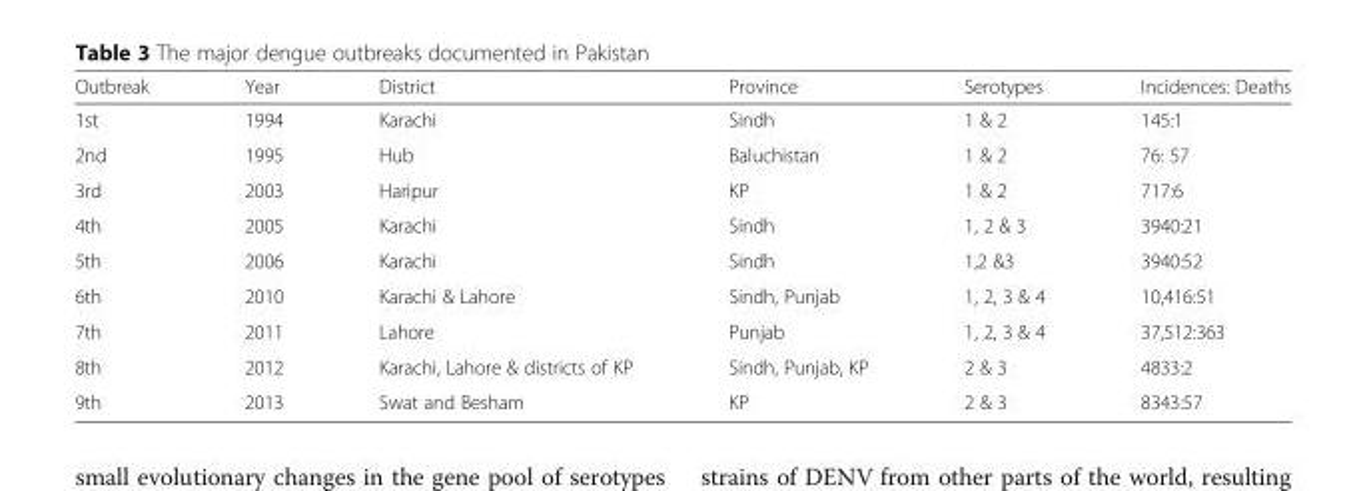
<table><thead><tr><td>Outbreak</td><td>Year</td><td>District</td><td>Province</td><td>Serotypes</td><td>Incidences: Deaths</td></tr></thead><tbody><tr><td>1st</td><td>1994</td><td>Karachi</td><td>Sindh</td><td>1 &amp; 2</td><td>145:1</td></tr><tr><td>2nd</td><td>1995</td><td>Hub</td><td>Baluchistan</td><td>1 &amp; 2</td><td>76: 57</td></tr><tr><td>3rd</td><td>2003</td><td>Haripur</td><td>KP</td><td>1 &amp; 2</td><td>717:6</td></tr><tr><td>4th</td><td>2005</td><td>Karachi</td><td>Sindh</td><td>1, 2 &amp; 3</td><td>3940:21</td></tr><tr><td>5th</td><td>2006</td><td>Karachi</td><td>Sindh</td><td>1,2 &amp;3</td><td>3940:52</td></tr><tr><td>6th</td><td>2010</td><td>Karachi &amp; Lahore</td><td>Sindh, Punjab</td><td>1, 2, 3 &amp; 4</td><td>10,416:51</td></tr><tr><td>7th</td><td>2011</td><td>Lahore</td><td>Punjab</td><td>1, 2, 3 &amp; 4</td><td>37,512:363</td></tr><tr><td>8th</td><td>2012</td><td>Karachi, Lahore &amp; districts of KP</td><td>Sindh, Punjab, KP</td><td>2 &amp; 3</td><td>4833:2</td></tr><tr><td>9th</td><td>2013</td><td>Swat and Besham</td><td>KP</td><td>2 &amp; 3</td><td>8343:57</td></tr></tbody></table>